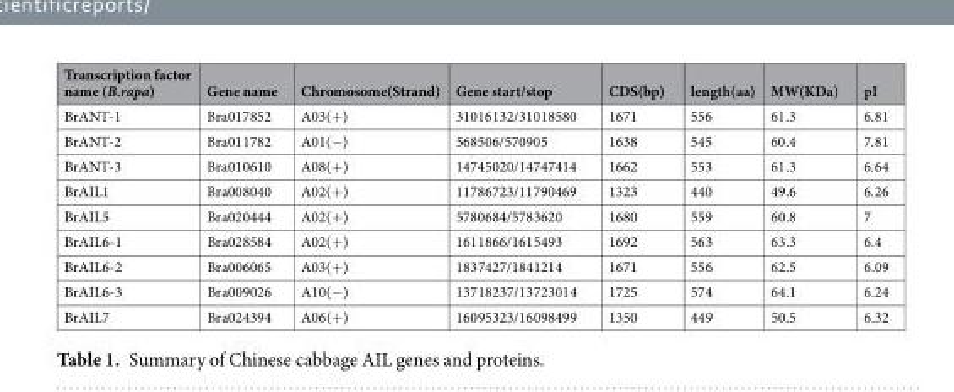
<table><thead><tr><td>Transcription factor name (B.rapa)</td><td>Gene name</td><td>Chromosome(Strand)</td><td>Gene start/stop</td><td>CDS(bp)</td><td>length(aa)</td><td>MW(KDa)</td><td>pI</td></tr></thead><tbody><tr><td>BrANT-1</td><td>Bra017852</td><td>A03(+)</td><td>31016132/31018580</td><td>1671</td><td>556</td><td>61.3</td><td>6.81</td></tr><tr><td>BrANT-2</td><td>Bra011782</td><td>A01(−)</td><td>568506/570905</td><td>1638</td><td>545</td><td>60.4</td><td>7.81</td></tr><tr><td>BrANT-3</td><td>Bra010610</td><td>A08(+)</td><td>14745020/14747414</td><td>1662</td><td>553</td><td>61.3</td><td>6.64</td></tr><tr><td>BrAIL1</td><td>Bra008040</td><td>A02(+)</td><td>11786723/11790469</td><td>1323</td><td>440</td><td>49.6</td><td>6.26</td></tr><tr><td>BrAIL5</td><td>Bra020444</td><td>A02(+)</td><td>5780684/5783620</td><td>1680</td><td>559</td><td>60.8</td><td>7</td></tr><tr><td>BrAIL6-1</td><td>Bra028584</td><td>A02(+)</td><td>1611866/1615493</td><td>1692</td><td>563</td><td>63.3</td><td>6.4</td></tr><tr><td>BrAIL6-2</td><td>Bra006065</td><td>A03(+)</td><td>1837427/1841214</td><td>1671</td><td>556</td><td>62.5</td><td>6.09</td></tr><tr><td>BrAIL6-3</td><td>Bra009026</td><td>A10(−)</td><td>13718237/13723014</td><td>1725</td><td>574</td><td>64.1</td><td>6.24</td></tr><tr><td>BrAIL7</td><td>Bra024394</td><td>A06(+)</td><td>16095323/16098499</td><td>1350</td><td>449</td><td>50.5</td><td>6.32</td></tr></tbody></table>